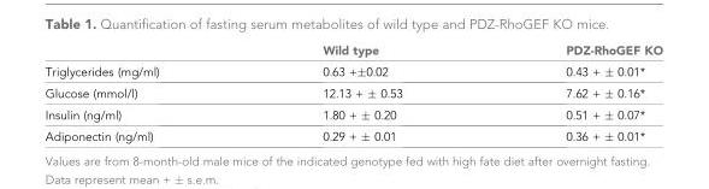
<table><thead><tr><td></td><td>Wild type</td><td>PDZ-RhoGEF KO</td></tr></thead><tbody><tr><td>Triglycerides (mg/ml)</td><td>0.63 +±0.02</td><td>0.43 + ± 0.01*</td></tr><tr><td>Glucose (mmol/l)</td><td>12.13 + ± 0.53</td><td>7.62 + ± 0.16*</td></tr><tr><td>Insulin (ng/ml)</td><td>1.80 + ± 0.20</td><td>0.51 + ± 0.07*</td></tr><tr><td>Adiponectin (ng/ml)</td><td>0.29 + ± 0.01</td><td>0.36 + ± 0.01*</td></tr></tbody></table>